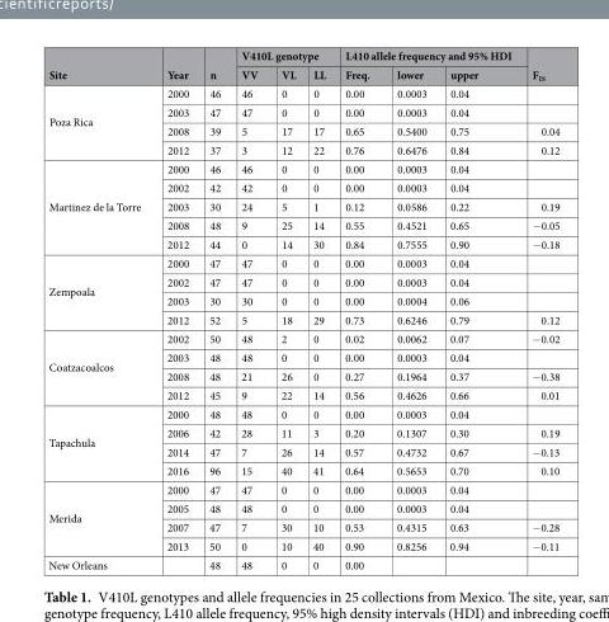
<table><thead><tr><td rowspan="2">Site</td><td rowspan="2">Year</td><td rowspan="2">n</td><td colspan="3">V410L genotype</td><td colspan="3">L410 allele frequency and 95% HDI</td><td rowspan="2">F<sub>IS</sub></td></tr><tr><td>VV</td><td>VL</td><td>LL</td><td>Freq.</td><td>lower</td><td>upper</td></tr></thead><tbody><tr><td rowspan="4">Poza Rica</td><td>2000</td><td>46</td><td>46</td><td>0</td><td>0</td><td>0.00</td><td>0.0003</td><td>0.04</td><td></td></tr><tr><td>2003</td><td>47</td><td>47</td><td>0</td><td>0</td><td>0.00</td><td>0.0003</td><td>0.04</td><td></td></tr><tr><td>2008</td><td>39</td><td>5</td><td>17</td><td>17</td><td>0.65</td><td>0.5400</td><td>0.75</td><td>0.04</td></tr><tr><td>2012</td><td>37</td><td>3</td><td>12</td><td>22</td><td>0.76</td><td>0.6476</td><td>0.84</td><td>0.12</td></tr><tr><td rowspan="5">Martinez de la Torre</td><td>2000</td><td>46</td><td>46</td><td>0</td><td>0</td><td>0.00</td><td>0.0003</td><td>0.04</td><td></td></tr><tr><td>2002</td><td>42</td><td>42</td><td>0</td><td>0</td><td>0.00</td><td>0.0003</td><td>0.04</td><td></td></tr><tr><td>2003</td><td>30</td><td>24</td><td>5</td><td>1</td><td>0.12</td><td>0.0586</td><td>0.22</td><td>0.19</td></tr><tr><td>2008</td><td>48</td><td>9</td><td>25</td><td>14</td><td>0.55</td><td>0.4521</td><td>0.65</td><td>−0.05</td></tr><tr><td>2012</td><td>44</td><td>0</td><td>14</td><td>30</td><td>0.84</td><td>0.7555</td><td>0.90</td><td>−0.18</td></tr><tr><td rowspan="4">Zempoala</td><td>2000</td><td>47</td><td>47</td><td>0</td><td>0</td><td>0.00</td><td>0.0003</td><td>0.04</td><td></td></tr><tr><td>2002</td><td>47</td><td>47</td><td>0</td><td>0</td><td>0.00</td><td>0.0003</td><td>0.04</td><td></td></tr><tr><td>2003</td><td>30</td><td>30</td><td>0</td><td>0</td><td>0.00</td><td>0.0004</td><td>0.06</td><td></td></tr><tr><td>2012</td><td>52</td><td>5</td><td>18</td><td>29</td><td>0.73</td><td>0.6246</td><td>0.79</td><td>0.12</td></tr><tr><td rowspan="4">Coatzacoalcos</td><td>2002</td><td>50</td><td>48</td><td>2</td><td>0</td><td>0.02</td><td>0.0062</td><td>0.07</td><td>−0.02</td></tr><tr><td>2003</td><td>48</td><td>48</td><td>0</td><td>0</td><td>0.00</td><td>0.0003</td><td>0.04</td><td></td></tr><tr><td>2008</td><td>48</td><td>21</td><td>26</td><td>0</td><td>0.27</td><td>0.1964</td><td>0.37</td><td>−0.38</td></tr><tr><td>2012</td><td>45</td><td>9</td><td>22</td><td>14</td><td>0.56</td><td>0.4626</td><td>0.66</td><td>0.01</td></tr><tr><td rowspan="4">Tapachula</td><td>2000</td><td>48</td><td>48</td><td>0</td><td>0</td><td>0.00</td><td>0.0003</td><td>0.04</td><td></td></tr><tr><td>2006</td><td>42</td><td>28</td><td>11</td><td>3</td><td>0.20</td><td>0.1307</td><td>0.30</td><td>0.19</td></tr><tr><td>2014</td><td>47</td><td>7</td><td>26</td><td>14</td><td>0.57</td><td>0.4732</td><td>0.67</td><td>−0.13</td></tr><tr><td>2016</td><td>96</td><td>15</td><td>40</td><td>41</td><td>0.64</td><td>0.5653</td><td>0.70</td><td>0.10</td></tr><tr><td rowspan="4">Merida</td><td>2000</td><td>47</td><td>47</td><td>0</td><td>0</td><td>0.00</td><td>0.0003</td><td>0.04</td><td></td></tr><tr><td>2005</td><td>48</td><td>48</td><td>0</td><td>0</td><td>0.00</td><td>0.0003</td><td>0.04</td><td></td></tr><tr><td>2007</td><td>47</td><td>7</td><td>30</td><td>10</td><td>0.53</td><td>0.4315</td><td>0.63</td><td>−0.28</td></tr><tr><td>2013</td><td>50</td><td>0</td><td>10</td><td>40</td><td>0.90</td><td>0.8256</td><td>0.94</td><td>−0.11</td></tr><tr><td>New Orleans</td><td></td><td>48</td><td>48</td><td>0</td><td>0</td><td>0.00</td><td></td><td></td><td></td></tr></tbody></table>